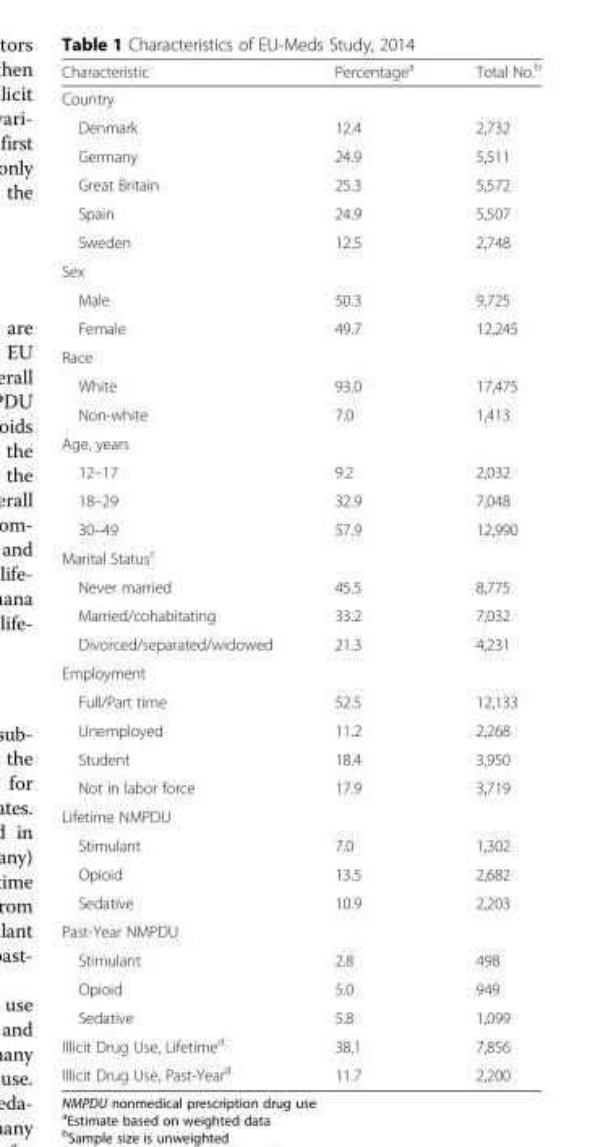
<table><thead><tr><td>Characteristic</td><td>Percentage<sup>a</sup></td><td>Total No.<sup>b</sup></td></tr></thead><tbody><tr><td colspan="3">Country</td></tr><tr><td>Denmark</td><td>12.4</td><td>2,732</td></tr><tr><td>Germany</td><td>24.9</td><td>5,511</td></tr><tr><td>Great Britain</td><td>25.3</td><td>5,572</td></tr><tr><td>Spain</td><td>24.9</td><td>5,507</td></tr><tr><td>Sweden</td><td>12.5</td><td>2,748</td></tr><tr><td colspan="3">Sex</td></tr><tr><td>Male</td><td>50.3</td><td>9,725</td></tr><tr><td>Female</td><td>49.7</td><td>12,245</td></tr><tr><td colspan="3">Race</td></tr><tr><td>White</td><td>93.0</td><td>17,475</td></tr><tr><td>Non-white</td><td>7.0</td><td>1,413</td></tr><tr><td colspan="3">Age, years</td></tr><tr><td>12–17</td><td>9.2</td><td>2,032</td></tr><tr><td>18–29</td><td>32.9</td><td>7,048</td></tr><tr><td>30–49</td><td>57.9</td><td>12,990</td></tr><tr><td colspan="3">Marital Status<sup>c</sup></td></tr><tr><td>Never married</td><td>45.5</td><td>8,775</td></tr><tr><td>Married/cohabitating</td><td>33.2</td><td>7,032</td></tr><tr><td>Divorced/separated/widowed</td><td>21.3</td><td>4,231</td></tr><tr><td colspan="3">Employment</td></tr><tr><td>Full/Part time</td><td>52.5</td><td>12,133</td></tr><tr><td>Unemployed</td><td>11.2</td><td>2,268</td></tr><tr><td>Student</td><td>18.4</td><td>3,950</td></tr><tr><td>Not in labor force</td><td>17.9</td><td>3,719</td></tr><tr><td colspan="3">Lifetime NMPDU</td></tr><tr><td>Stimulant</td><td>7.0</td><td>1,302</td></tr><tr><td>Opioid</td><td>13.5</td><td>2,682</td></tr><tr><td>Sedative</td><td>10.9</td><td>2,203</td></tr><tr><td colspan="3">Past-Year NMPDU</td></tr><tr><td>Stimulant</td><td>2.8</td><td>498</td></tr><tr><td>Opioid</td><td>5.0</td><td>949</td></tr><tr><td>Sedative</td><td>5.8</td><td>1,099</td></tr><tr><td>Illicit Drug Use, Lifetime<sup>d</sup></td><td>38.1</td><td>7,856</td></tr><tr><td>Illicit Drug Use, Past-Year<sup>d</sup></td><td>11.7</td><td>2,200</td></tr></tbody></table>